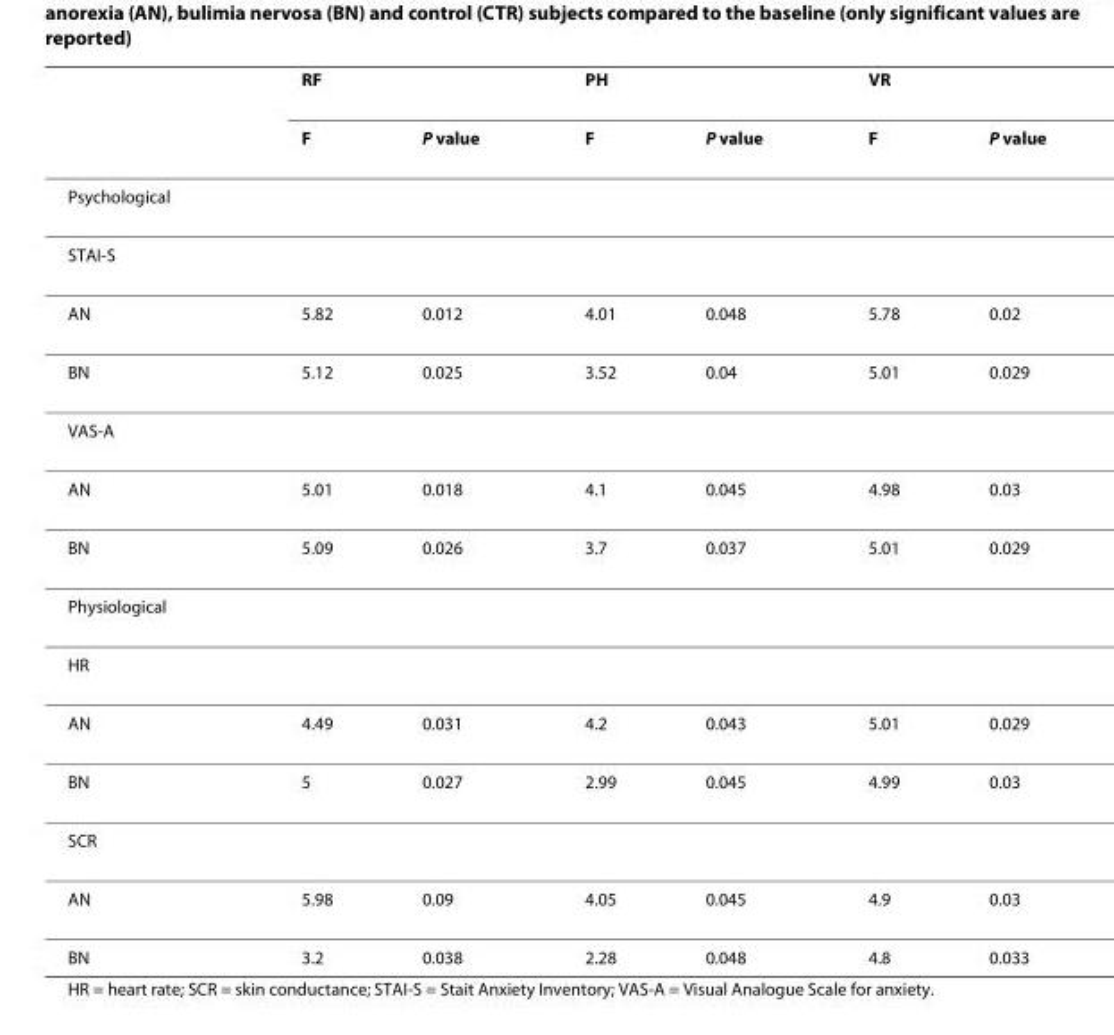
<table><thead><tr><td rowspan="2"></td><td colspan="2">RF</td><td colspan="2">PH</td><td colspan="2">VR</td></tr><tr><td>F</td><td>P value</td><td>F</td><td>P value</td><td>F</td><td>P value</td></tr></thead><tbody><tr><td colspan="7">Psychological</td></tr><tr><td colspan="7">STAI-S</td></tr><tr><td>AN</td><td>5.82</td><td>0.012</td><td>4.01</td><td>0.048</td><td>5.78</td><td>0.02</td></tr><tr><td>BN</td><td>5.12</td><td>0.025</td><td>3.52</td><td>0.04</td><td>5.01</td><td>0.029</td></tr><tr><td colspan="7">VAS-A</td></tr><tr><td>AN</td><td>5.01</td><td>0.018</td><td>4.1</td><td>0.045</td><td>4.98</td><td>0.03</td></tr><tr><td>BN</td><td>5.09</td><td>0.026</td><td>3.7</td><td>0.037</td><td>5.01</td><td>0.029</td></tr><tr><td colspan="7">Physiological</td></tr><tr><td colspan="7">HR</td></tr><tr><td>AN</td><td>4.49</td><td>0.031</td><td>4.2</td><td>0.043</td><td>5.01</td><td>0.029</td></tr><tr><td>BN</td><td>5</td><td>0.027</td><td>2.99</td><td>0.045</td><td>4.99</td><td>0.03</td></tr><tr><td colspan="7">SCR</td></tr><tr><td>AN</td><td>5.98</td><td>0.09</td><td>4.05</td><td>0.045</td><td>4.9</td><td>0.03</td></tr><tr><td>BN</td><td>3.2</td><td>0.038</td><td>2.28</td><td>0.048</td><td>4.8</td><td>0.033</td></tr></tbody></table>